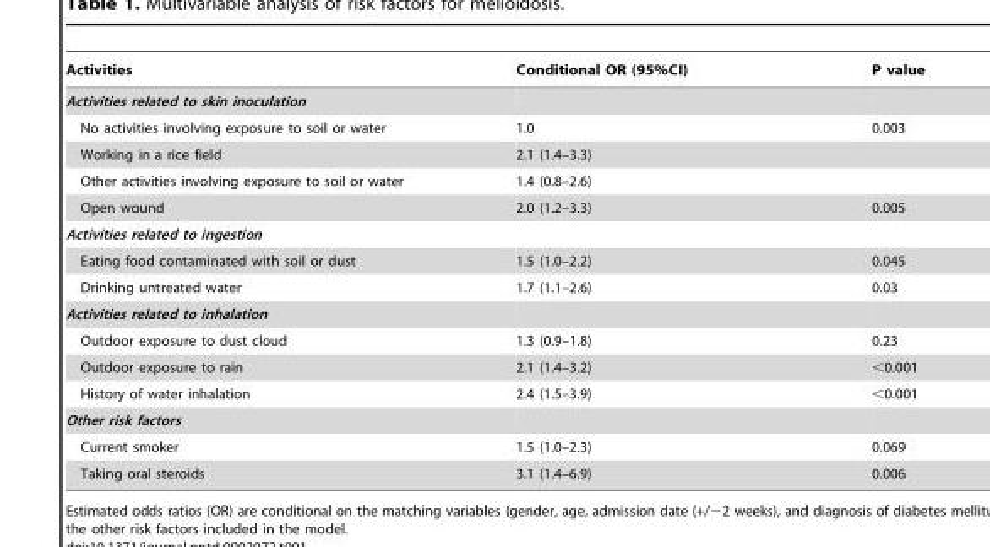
<table><thead><tr><td>Activities</td><td>Conditional OR (95%CI)</td><td>P value</td></tr></thead><tbody><tr><td colspan="3">Activities related to skin inoculation</td></tr><tr><td>No activities involving exposure to soil or water</td><td>1.0</td><td>0.003</td></tr><tr><td>Working in a rice field</td><td>2.1 (1.4–3.3)</td><td></td></tr><tr><td>Other activities involving exposure to soil or water</td><td>1.4 (0.8–2.6)</td><td></td></tr><tr><td>Open wound</td><td>2.0 (1.2–3.3)</td><td>0.005</td></tr><tr><td colspan="3">Activities related to ingestion</td></tr><tr><td>Eating food contaminated with soil or dust</td><td>1.5 (1.0–2.2)</td><td>0.045</td></tr><tr><td>Drinking untreated water</td><td>1.7 (1.1–2.6)</td><td>0.03</td></tr><tr><td colspan="3">Activities related to inhalation</td></tr><tr><td>Outdoor exposure to dust cloud</td><td>1.3 (0.9–1.8)</td><td>0.23</td></tr><tr><td>Outdoor exposure to rain</td><td>2.1 (1.4–3.2)</td><td>&lt;0.001</td></tr><tr><td>History of water inhalation</td><td>2.4 (1.5–3.9)</td><td>&lt;0.001</td></tr><tr><td colspan="3">Other risk factors</td></tr><tr><td>Current smoker</td><td>1.5 (1.0–2.3)</td><td>0.069</td></tr><tr><td>Taking oral steroids</td><td>3.1 (1.4–6.9)</td><td>0.006</td></tr></tbody></table>